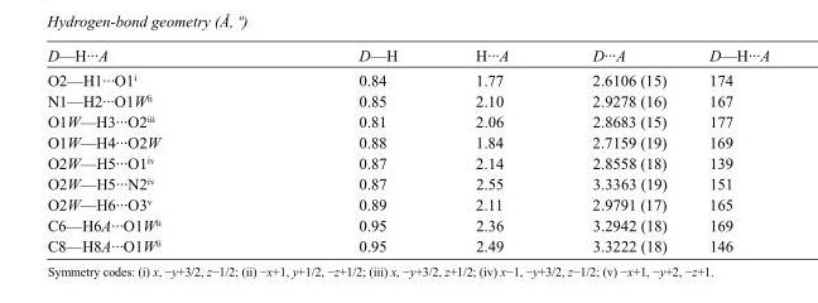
<table><tbody><tr><td>D—H···A</td><td>D—H</td><td>H···A</td><td>D···A</td><td>D—H···A</td></tr><tr><td>O2—H1···O1<sup>i</sup></td><td>0.84</td><td>1.77</td><td>2.6106 (15)</td><td>174</td></tr><tr><td>N1—H2···O1W<sup>ii</sup></td><td>0.85</td><td>2.10</td><td>2.9278 (16)</td><td>167</td></tr><tr><td>O1W—H3···O2<sup>iii</sup></td><td>0.81</td><td>2.06</td><td>2.8683 (15)</td><td>177</td></tr><tr><td>O1W—H4···O2W</td><td>0.88</td><td>1.84</td><td>2.7159 (19)</td><td>169</td></tr><tr><td>O2W—H5···O1<sup>iv</sup></td><td>0.87</td><td>2.14</td><td>2.8558 (18)</td><td>139</td></tr><tr><td>O2W—H5···N2<sup>iv</sup></td><td>0.87</td><td>2.55</td><td>3.3363 (19)</td><td>151</td></tr><tr><td>O2W—H6···O3<sup>v</sup></td><td>0.89</td><td>2.11</td><td>2.9791 (17)</td><td>165</td></tr><tr><td>C6—H6A···O1W<sup>ii</sup></td><td>0.95</td><td>2.36</td><td>3.2942 (18)</td><td>169</td></tr><tr><td>C8—H8A···O1W<sup>ii</sup></td><td>0.95</td><td>2.49</td><td>3.3222 (18)</td><td>146</td></tr></tbody></table>